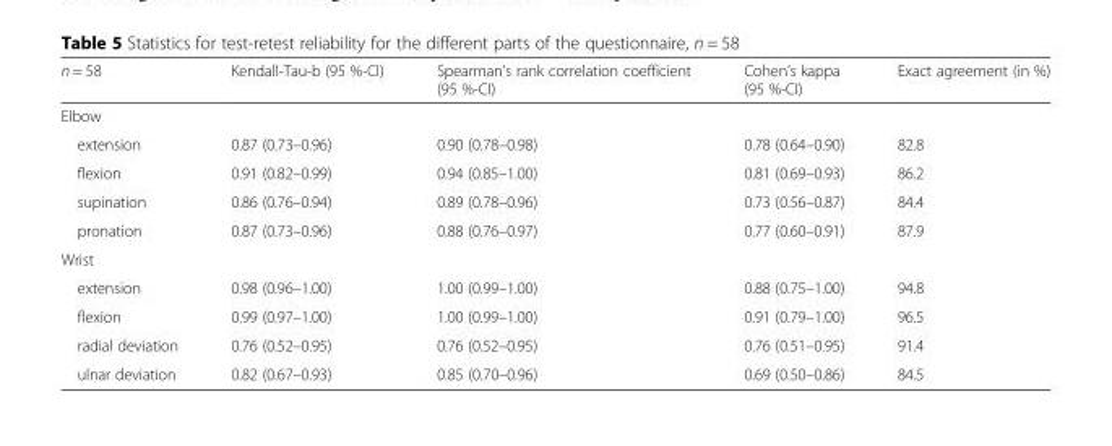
<table><thead><tr><td>n = 58</td><td>Kendall-Tau-b (95 %-CI)</td><td>Spearman’s rank correlation coefficient (95 %-CI)</td><td>Cohen’s kappa (95 %-CI)</td><td>Exact agreement (in %)</td></tr></thead><tbody><tr><td colspan="5">Elbow</td></tr><tr><td>extension</td><td>0.87 (0.73–0.96)</td><td>0.90 (0.78–0.98)</td><td>0.78 (0.64–0.90)</td><td>82.8</td></tr><tr><td>flexion</td><td>0.91 (0.82–0.99)</td><td>0.94 (0.85–1.00)</td><td>0.81 (0.69–0.93)</td><td>86.2</td></tr><tr><td>supination</td><td>0.86 (0.76–0.94)</td><td>0.89 (0.78–0.96)</td><td>0.73 (0.56–0.87)</td><td>84.4</td></tr><tr><td>pronation</td><td>0.87 (0.73–0.96)</td><td>0.88 (0.76–0.97)</td><td>0.77 (0.60–0.91)</td><td>87.9</td></tr><tr><td colspan="5">Wrist</td></tr><tr><td>extension</td><td>0.98 (0.96–1.00)</td><td>1.00 (0.99–1.00)</td><td>0.88 (0.75–1.00)</td><td>94.8</td></tr><tr><td>flexion</td><td>0.99 (0.97–1.00)</td><td>1.00 (0.99–1.00)</td><td>0.91 (0.79–1.00)</td><td>96.5</td></tr><tr><td>radial deviation</td><td>0.76 (0.52–0.95)</td><td>0.76 (0.52–0.95)</td><td>0.76 (0.51–0.95)</td><td>91.4</td></tr><tr><td>ulnar deviation</td><td>0.82 (0.67–0.93)</td><td>0.85 (0.70–0.96)</td><td>0.69 (0.50–0.86)</td><td>84.5</td></tr></tbody></table>